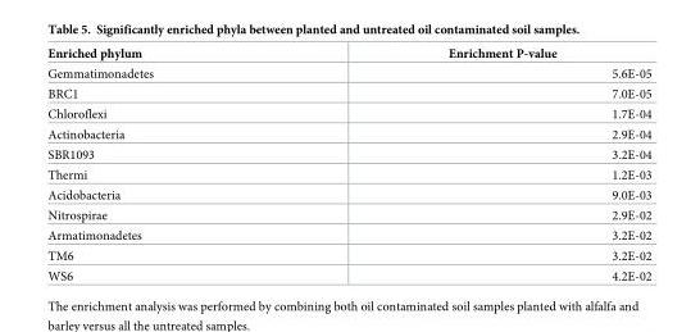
<table><thead><tr><td>Enriched phylum</td><td>Enrichment P-value</td></tr></thead><tbody><tr><td>Gemmatimonadetes</td><td>5.6E-05</td></tr><tr><td>BRC1</td><td>7.0E-05</td></tr><tr><td>Chloroflexi</td><td>1.7E-04</td></tr><tr><td>Actinobacteria</td><td>2.9E-04</td></tr><tr><td>SBR1093</td><td>3.2E-04</td></tr><tr><td>Thermi</td><td>1.2E-03</td></tr><tr><td>Acidobacteria</td><td>9.0E-03</td></tr><tr><td>Nitrospirae</td><td>2.9E-02</td></tr><tr><td>Armatimonadetes</td><td>3.2E-02</td></tr><tr><td>TM6</td><td>3.2E-02</td></tr><tr><td>WS6</td><td>4.2E-02</td></tr></tbody></table>